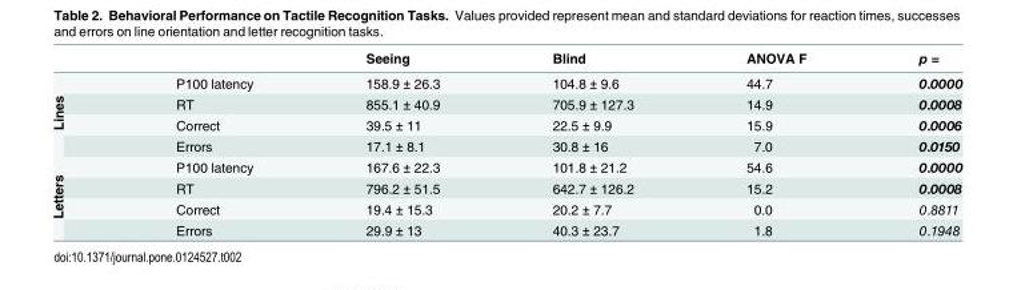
<table><thead><tr><td></td><td></td><td>Seeing</td><td>Blind</td><td>ANOVA F</td><td>p =</td></tr></thead><tbody><tr><td rowspan="4">Lines</td><td>P100 latency</td><td>158.9 ± 26.3</td><td>104.8 ± 9.6</td><td>44.7</td><td>0.0000</td></tr><tr><td>RT</td><td>855.1 ± 40.9</td><td>705.9 ± 127.3</td><td>14.9</td><td>0.0008</td></tr><tr><td>Correct</td><td>39.5 ± 11</td><td>22.5 ± 9.9</td><td>15.9</td><td>0.0006</td></tr><tr><td>Errors</td><td>17.1 ± 8.1</td><td>30.8 ± 16</td><td>7.0</td><td>0.0150</td></tr><tr><td rowspan="4">Letters</td><td>P100 latency</td><td>167.6 ± 22.3</td><td>101.8 ± 21.2</td><td>54.6</td><td>0.0000</td></tr><tr><td>RT</td><td>796.2 ± 51.5</td><td>642.7 ± 126.2</td><td>15.2</td><td>0.0008</td></tr><tr><td>Correct</td><td>19.4 ± 15.3</td><td>20.2 ± 7.7</td><td>0.0</td><td>0.8811</td></tr><tr><td>Errors</td><td>29.9 ± 13</td><td>40.3 ± 23.7</td><td>1.8</td><td>0.1948</td></tr></tbody></table>